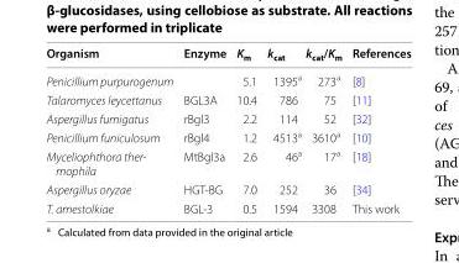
<table><thead><tr><td>Organism</td><td>Enzyme</td><td>K<sub>m</sub></td><td>k<sub>cat</sub></td><td>k<sub>cat</sub>/K<sub>m</sub></td><td>References</td></tr></thead><tbody><tr><td>Penicillium purpurogenum</td><td></td><td>5.1</td><td>1395<sup>a</sup></td><td>273<sup>a</sup></td><td>[8]</td></tr><tr><td>Talaromyces leycettanus</td><td>BGL3A</td><td>10.4</td><td>786</td><td>75</td><td>[11]</td></tr><tr><td>Aspergillus fumigatus</td><td>rBgl3</td><td>2.2</td><td>114</td><td>52</td><td>[32]</td></tr><tr><td>Penicillium funiculosum</td><td>rBgl4</td><td>1.2</td><td>4513<sup>a</sup></td><td>3610<sup>a</sup></td><td>[10]</td></tr><tr><td>Myceliophthora ther- mophila</td><td>MtBgl3a</td><td>2.6</td><td>46<sup>a</sup></td><td>17<sup>a</sup></td><td>[18]</td></tr><tr><td>Aspergillus oryzae</td><td>HGT‑BG</td><td>7.0</td><td>252</td><td>36</td><td>[34]</td></tr><tr><td>T. amestolkiae</td><td>BGL‑3</td><td>0.5</td><td>1594</td><td>3308</td><td>This work</td></tr></tbody></table>